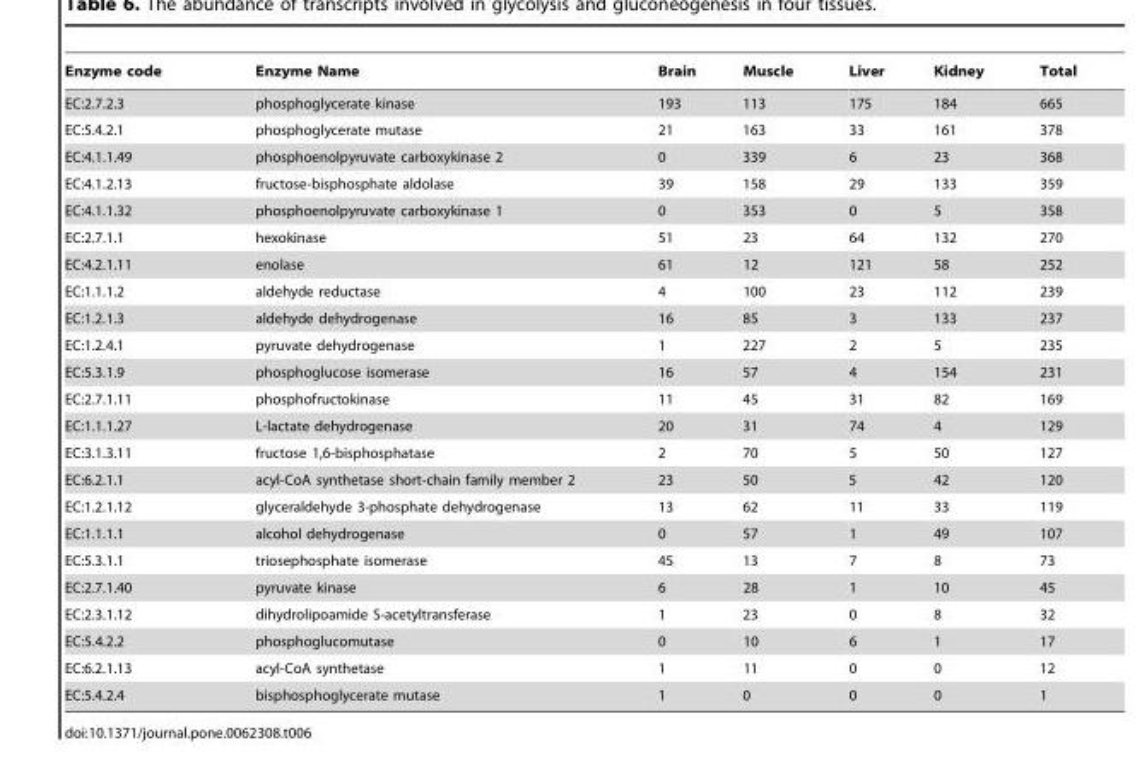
<table><thead><tr><td>Enzyme code</td><td>Enzyme Name</td><td>Brain</td><td>Muscle</td><td>Liver</td><td>Kidney</td><td>Total</td></tr></thead><tbody><tr><td>EC:2.7.2.3</td><td>phosphoglycerate kinase</td><td>193</td><td>113</td><td>175</td><td>184</td><td>665</td></tr><tr><td>EC:5.4.2.1</td><td>phosphoglycerate mutase</td><td>21</td><td>163</td><td>33</td><td>161</td><td>378</td></tr><tr><td>EC:4.1.1.49</td><td>phosphoenolpyruvate carboxykinase 2</td><td>0</td><td>339</td><td>6</td><td>23</td><td>368</td></tr><tr><td>EC:4.1.2.13</td><td>fructose-bisphosphate aldolase</td><td>39</td><td>158</td><td>29</td><td>133</td><td>359</td></tr><tr><td>EC:4.1.1.32</td><td>phosphoenolpyruvate carboxykinase 1</td><td>0</td><td>353</td><td>0</td><td>5</td><td>358</td></tr><tr><td>EC:2.7.1.1</td><td>hexokinase</td><td>51</td><td>23</td><td>64</td><td>132</td><td>270</td></tr><tr><td>EC:4.2.1.11</td><td>enolase</td><td>61</td><td>12</td><td>121</td><td>58</td><td>252</td></tr><tr><td>EC:1.1.1.2</td><td>aldehyde reductase</td><td>4</td><td>100</td><td>23</td><td>112</td><td>239</td></tr><tr><td>EC:1.2.1.3</td><td>aldehyde dehydrogenase</td><td>16</td><td>85</td><td>3</td><td>133</td><td>237</td></tr><tr><td>EC:1.2.4.1</td><td>pyruvate dehydrogenase</td><td>1</td><td>227</td><td>2</td><td>5</td><td>235</td></tr><tr><td>EC:5.3.1.9</td><td>phosphoglucose isomerase</td><td>16</td><td>57</td><td>4</td><td>154</td><td>231</td></tr><tr><td>EC:2.7.1.11</td><td>phosphofructokinase</td><td>11</td><td>45</td><td>31</td><td>82</td><td>169</td></tr><tr><td>EC:1.1.1.27</td><td>L-lactate dehydrogenase</td><td>20</td><td>31</td><td>74</td><td>4</td><td>129</td></tr><tr><td>EC:3.1.3.11</td><td>fructose 1,6-bisphosphatase</td><td>2</td><td>70</td><td>5</td><td>50</td><td>127</td></tr><tr><td>EC:6.2.1.1</td><td>acyl-CoA synthetase short-chain family member 2</td><td>23</td><td>50</td><td>5</td><td>42</td><td>120</td></tr><tr><td>EC:1.2.1.12</td><td>glyceraldehyde 3-phosphate dehydrogenase</td><td>13</td><td>62</td><td>11</td><td>33</td><td>119</td></tr><tr><td>EC:1.1.1.1</td><td>alcohol dehydrogenase</td><td>0</td><td>57</td><td>1</td><td>49</td><td>107</td></tr><tr><td>EC:5.3.1.1</td><td>triosephosphate isomerase</td><td>45</td><td>13</td><td>7</td><td>8</td><td>73</td></tr><tr><td>EC:2.7.1.40</td><td>pyruvate kinase</td><td>6</td><td>28</td><td>1</td><td>10</td><td>45</td></tr><tr><td>EC:2.3.1.12</td><td>dihydrolipoamide S-acetyltransferase</td><td>1</td><td>23</td><td>0</td><td>8</td><td>32</td></tr><tr><td>EC:5.4.2.2</td><td>phosphoglucomutase</td><td>0</td><td>10</td><td>6</td><td>1</td><td>17</td></tr><tr><td>EC:6.2.1.13</td><td>acyl-CoA synthetase</td><td>1</td><td>11</td><td>0</td><td>0</td><td>12</td></tr><tr><td>EC:5.4.2.4</td><td>bisphosphoglycerate mutase</td><td>1</td><td>0</td><td>0</td><td>0</td><td>1</td></tr></tbody></table>